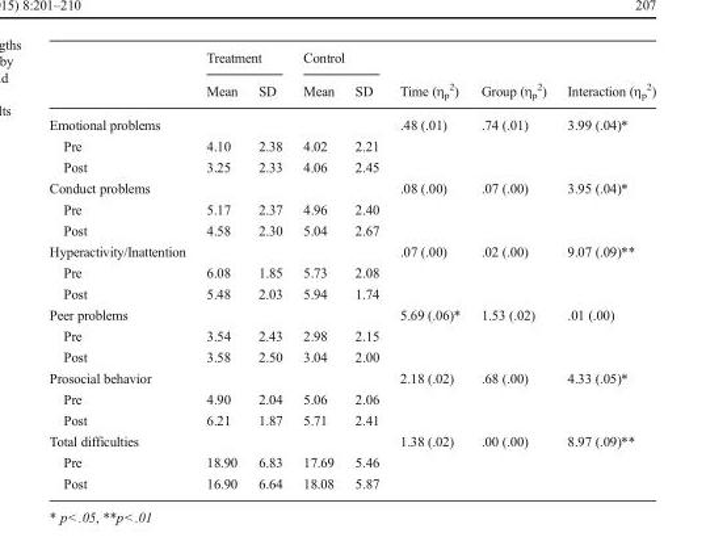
<table><thead><tr><td rowspan="2"></td><td colspan="2">Treatment</td><td colspan="2">Control</td><td rowspan="2">Time (η<sub>p</sub> <sup>2</sup>)</td><td rowspan="2">Group (η<sub>p</sub> <sup>2</sup>)</td><td rowspan="2">Interaction (η<sub>p</sub> <sup>2</sup>)</td></tr><tr><td>Mean</td><td>SD</td><td>Mean</td><td>SD</td></tr></thead><tbody><tr><td>Emotional problems</td><td></td><td></td><td></td><td></td><td>.48 (.01)</td><td>.74 (.01)</td><td>3.99 (.04)*</td></tr><tr><td>Pre</td><td>4.10</td><td>2.38</td><td>4.02</td><td>2.21</td><td></td><td></td><td></td></tr><tr><td>Post</td><td>3.25</td><td>2.33</td><td>4.06</td><td>2.45</td><td></td><td></td><td></td></tr><tr><td>Conduct problems</td><td></td><td></td><td></td><td></td><td>.08 (.00)</td><td>.07 (.00)</td><td>3.95 (.04)*</td></tr><tr><td>Pre</td><td>5.17</td><td>2.37</td><td>4.96</td><td>2.40</td><td></td><td></td><td></td></tr><tr><td>Post</td><td>4.58</td><td>2.30</td><td>5.04</td><td>2.67</td><td></td><td></td><td></td></tr><tr><td>Hyperactivity/Inattention</td><td></td><td></td><td></td><td></td><td>.07 (.00)</td><td>.02 (.00)</td><td>9.07 (.09)**</td></tr><tr><td>Pre</td><td>6.08</td><td>1.85</td><td>5.73</td><td>2.08</td><td></td><td></td><td></td></tr><tr><td>Post</td><td>5.48</td><td>2.03</td><td>5.94</td><td>1.74</td><td></td><td></td><td></td></tr><tr><td>Peer problems</td><td></td><td></td><td></td><td></td><td>5.69 (.06)*</td><td>1.53 (.02)</td><td>.01 (.00)</td></tr><tr><td>Pre</td><td>3.54</td><td>2.43</td><td>2.98</td><td>2.15</td><td></td><td></td><td></td></tr><tr><td>Post</td><td>3.58</td><td>2.50</td><td>3.04</td><td>2.00</td><td></td><td></td><td></td></tr><tr><td>Prosocial behavior</td><td></td><td></td><td></td><td></td><td>2.18 (.02)</td><td>.68 (.00)</td><td>4.33 (.05)*</td></tr><tr><td>Pre</td><td>4.90</td><td>2.04</td><td>5.06</td><td>2.06</td><td></td><td></td><td></td></tr><tr><td>Post</td><td>6.21</td><td>1.87</td><td>5.71</td><td>2.41</td><td></td><td></td><td></td></tr><tr><td>Total difficulties</td><td></td><td></td><td></td><td></td><td>1.38 (.02)</td><td>.00 (.00)</td><td>8.97 (.09)**</td></tr><tr><td>Pre</td><td>18.90</td><td>6.83</td><td>17.69</td><td>5.46</td><td></td><td></td><td></td></tr><tr><td>Post</td><td>16.90</td><td>6.64</td><td>18.08</td><td>5.87</td><td></td><td></td><td></td></tr></tbody></table>